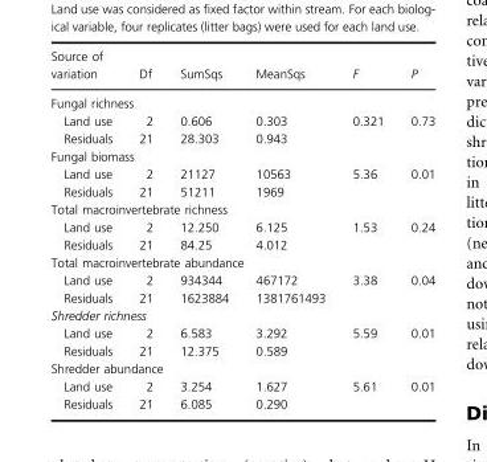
<table><thead><tr><td>Source of variation</td><td>Df</td><td>SumSqs</td><td>MeanSqs</td><td>F</td><td>P</td></tr></thead><tbody><tr><td colspan="6">Fungal richness</td></tr><tr><td>Land use</td><td>2</td><td>0.606</td><td>0.303</td><td rowspan="2">0.321</td><td rowspan="2">0.73</td></tr><tr><td>Residuals</td><td>21</td><td>28.303</td><td>0.943</td></tr><tr><td colspan="6">Fungal biomass</td></tr><tr><td>Land use</td><td>2</td><td>21127</td><td>10563</td><td rowspan="2">5.36</td><td rowspan="2">0.01</td></tr><tr><td>Residuals</td><td>21</td><td>51211</td><td>1969</td></tr><tr><td colspan="6">Total macroinvertebrate richness</td></tr><tr><td>Land use</td><td>2</td><td>12.250</td><td>6.125</td><td rowspan="2">1.53</td><td rowspan="2">0.24</td></tr><tr><td>Residuals</td><td>21</td><td>84.25</td><td>4.012</td></tr><tr><td colspan="6">Total macroinvertebrate abundance</td></tr><tr><td>Land use</td><td>2</td><td>934344</td><td>467172</td><td rowspan="2">3.38</td><td rowspan="2">0.04</td></tr><tr><td>Residuals</td><td>21</td><td>1623884</td><td>1381761493</td></tr><tr><td colspan="6">Shredder richness</td></tr><tr><td>Land use</td><td>2</td><td>6.583</td><td>3.292</td><td rowspan="2">5.59</td><td rowspan="2">0.01</td></tr><tr><td>Residuals</td><td>21</td><td>12.375</td><td>0.589</td></tr><tr><td colspan="6">Shredder abundance</td></tr><tr><td>Land use</td><td>2</td><td>3.254</td><td>1.627</td><td rowspan="2">5.61</td><td rowspan="2">0.01</td></tr><tr><td>Residuals</td><td>21</td><td>6.085</td><td>0.290</td></tr></tbody></table>